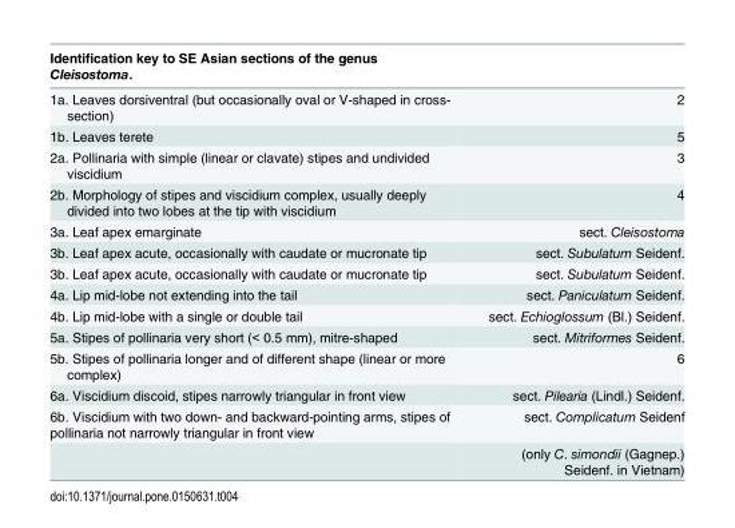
<table><thead><tr><td>Identification key to SE Asian sections of the genus Cleisostoma.</td><td></td></tr></thead><tbody><tr><td>1a. Leaves dorsiventral (but occasionally oval or V-shaped in cross- section)</td><td>2</td></tr><tr><td>1b. Leaves terete</td><td>5</td></tr><tr><td>2a. Pollinaria with simple (linear or clavate) stipes and undivided viscidium</td><td>3</td></tr><tr><td>2b. Morphology of stipes and viscidium complex, usually deeply divided into two lobes at the tip with viscidium</td><td>4</td></tr><tr><td>3a. Leaf apex emarginate</td><td>sect. Cleisostoma</td></tr><tr><td>3b. Leaf apex acute, occasionally with caudate or mucronate tip</td><td>sect. Subulatum Seidenf.</td></tr><tr><td>3b. Leaf apex acute, occasionally with caudate or mucronate tip</td><td>sect. Subulatum Seidenf.</td></tr><tr><td>4a. Lip mid-lobe not extending into the tail</td><td>sect. Paniculatum Seidenf.</td></tr><tr><td>4b. Lip mid-lobe with a single or double tail</td><td>sect. Echioglossum (Bl.) Seidenf.</td></tr><tr><td>5a. Stipes of pollinaria very short (&lt; 0.5 mm), mitre-shaped</td><td>sect. Mitriformes Seidenf.</td></tr><tr><td>5b. Stipes of pollinaria longer and of different shape (linear or more complex)</td><td>6</td></tr><tr><td>6a. Viscidium discoid, stipes narrowly triangular in front view</td><td>sect. Pilearia (Lindl.) Seidenf.</td></tr><tr><td rowspan="2">6b. Viscidium with two down- and backward-pointing arms, stipes of pollinaria not narrowly triangular in front view</td><td>sect. Complicatum Seidenf</td></tr><tr><td>(only C. simondii (Gagnep.) Seidenf. in Vietnam)</td></tr></tbody></table>